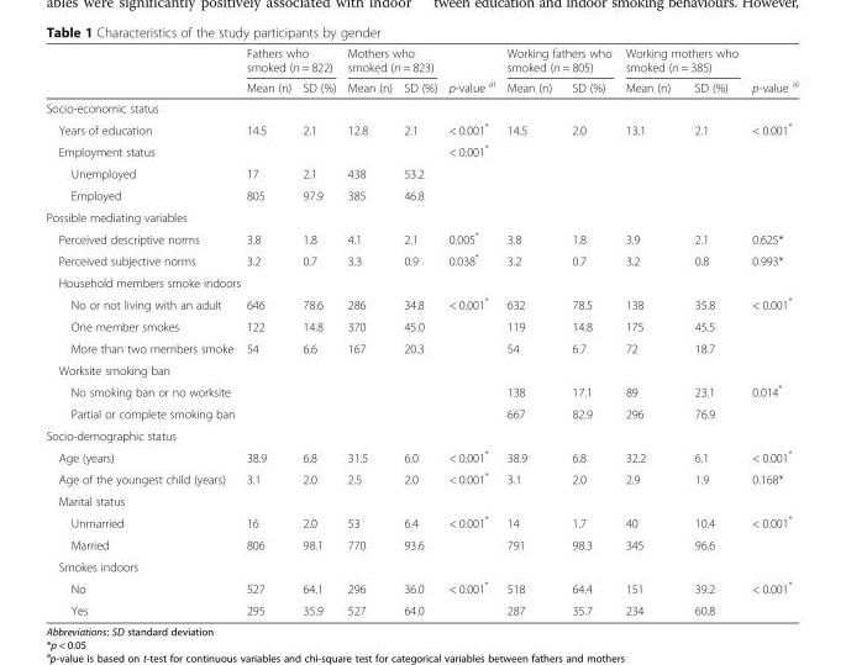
<table><thead><tr><td rowspan="2"></td><td colspan="2">Fathers who smoked (n = 822)</td><td colspan="2">Mothers who smoked (n = 823)</td><td rowspan="2">p-value <sup>a)</sup></td><td colspan="2">Working fathers who smoked (n = 805)</td><td colspan="2">Working mothers who smoked (n = 385)</td><td rowspan="2">p-value <sup>a)</sup></td></tr><tr><td>Mean (n)</td><td>SD (%)</td><td>Mean (n)</td><td>SD (%)</td><td>Mean (n)</td><td>SD (%)</td><td>Mean (n)</td><td>SD (%)</td></tr></thead><tbody><tr><td colspan="11">Socio-economic status</td></tr><tr><td>Years of education</td><td>14.5</td><td>2.1</td><td>12.8</td><td>2.1</td><td>&lt; 0.001*</td><td>14.5</td><td>2.0</td><td>13.1</td><td>2.1</td><td>&lt; 0.001*</td></tr><tr><td>Employment status</td><td></td><td></td><td></td><td></td><td>&lt; 0.001*</td><td></td><td></td><td></td><td></td><td></td></tr><tr><td>Unemployed</td><td>17</td><td>2.1</td><td>438</td><td>53.2</td><td></td><td></td><td></td><td></td><td></td><td></td></tr><tr><td>Employed</td><td>805</td><td>97.9</td><td>385</td><td>46.8</td><td></td><td></td><td></td><td></td><td></td><td></td></tr><tr><td colspan="11">Possible mediating variables</td></tr><tr><td>Perceived descriptive norms</td><td>3.8</td><td>1.8</td><td>4.1</td><td>2.1</td><td>0.005*</td><td>3.8</td><td>1.8</td><td>3.9</td><td>2.1</td><td>0.625*</td></tr><tr><td>Perceived subjective norms</td><td>3.2</td><td>0.7</td><td>3.3</td><td>0.9</td><td>0.038*</td><td>3.2</td><td>0.7</td><td>3.2</td><td>0.8</td><td>0.993*</td></tr><tr><td colspan="11">Household members smoke indoors</td></tr><tr><td>No or not living with an adult</td><td>646</td><td>78.6</td><td>286</td><td>34.8</td><td>&lt; 0.001*</td><td>632</td><td>78.5</td><td>138</td><td>35.8</td><td>&lt; 0.001*</td></tr><tr><td>One member smokes</td><td>122</td><td>14.8</td><td>370</td><td>45.0</td><td></td><td>119</td><td>14.8</td><td>175</td><td>45.5</td><td></td></tr><tr><td>More than two members smoke</td><td>54</td><td>6.6</td><td>167</td><td>20.3</td><td></td><td>54</td><td>6.7</td><td>72</td><td>18.7</td><td></td></tr><tr><td colspan="11">Worksite smoking ban</td></tr><tr><td>No smoking ban or no worksite</td><td></td><td></td><td></td><td></td><td></td><td>138</td><td>17.1</td><td>89</td><td>23.1</td><td>0.014*</td></tr><tr><td>Partial or complete smoking ban</td><td></td><td></td><td></td><td></td><td></td><td>667</td><td>82.9</td><td>296</td><td>76.9</td><td></td></tr><tr><td colspan="11">Socio-demographic status</td></tr><tr><td>Age (years)</td><td>38.9</td><td>6.8</td><td>31.5</td><td>6.0</td><td>&lt; 0.001*</td><td>38.9</td><td>6.8</td><td>32.2</td><td>6.1</td><td>&lt; 0.001*</td></tr><tr><td>Age of the youngest child (years)</td><td>3.1</td><td>2.0</td><td>2.5</td><td>2.0</td><td>&lt; 0.001*</td><td>3.1</td><td>2.0</td><td>2.9</td><td>1.9</td><td>0.168*</td></tr><tr><td colspan="11">Marital status</td></tr><tr><td>Unmarried</td><td>16</td><td>2.0</td><td>53</td><td>6.4</td><td>&lt; 0.001*</td><td>14</td><td>1.7</td><td>40</td><td>10.4</td><td>&lt; 0.001*</td></tr><tr><td>Married</td><td>806</td><td>98.1</td><td>770</td><td>93.6</td><td></td><td>791</td><td>98.3</td><td>345</td><td>96.6</td><td></td></tr><tr><td colspan="11">Smokes indoors</td></tr><tr><td>No</td><td>527</td><td>64.1</td><td>296</td><td>36.0</td><td>&lt; 0.001*</td><td>518</td><td>64.4</td><td>151</td><td>39.2</td><td>&lt; 0.001*</td></tr><tr><td>Yes</td><td>295</td><td>35.9</td><td>527</td><td>64.0</td><td></td><td>287</td><td>35.7</td><td>234</td><td>60.8</td><td></td></tr></tbody></table>